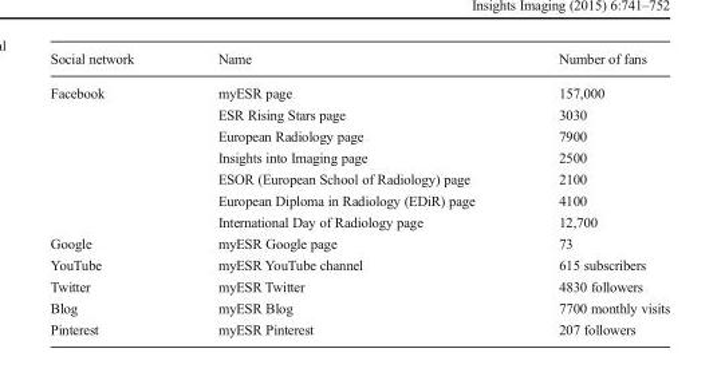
<table><thead><tr><td>Social network</td><td>Name</td><td>Number of fans</td></tr></thead><tbody><tr><td rowspan="7">Facebook</td><td>myESR page</td><td>157,000</td></tr><tr><td>ESR Rising Stars page</td><td>3030</td></tr><tr><td>European Radiology page</td><td>7900</td></tr><tr><td>Insights into Imaging page</td><td>2500</td></tr><tr><td>ESOR (European School of Radiology) page</td><td>2100</td></tr><tr><td>European Diploma in Radiology (EDiR) page</td><td>4100</td></tr><tr><td>International Day of Radiology page</td><td>12,700</td></tr><tr><td>Google</td><td>myESR Google page</td><td>73</td></tr><tr><td>YouTube</td><td>myESR YouTube channel</td><td>615 subscribers</td></tr><tr><td>Twitter</td><td>myESR Twitter</td><td>4830 followers</td></tr><tr><td>Blog</td><td>myESR Blog</td><td>7700 monthly visits</td></tr><tr><td>Pinterest</td><td>myESR Pinterest</td><td>207 followers</td></tr></tbody></table>